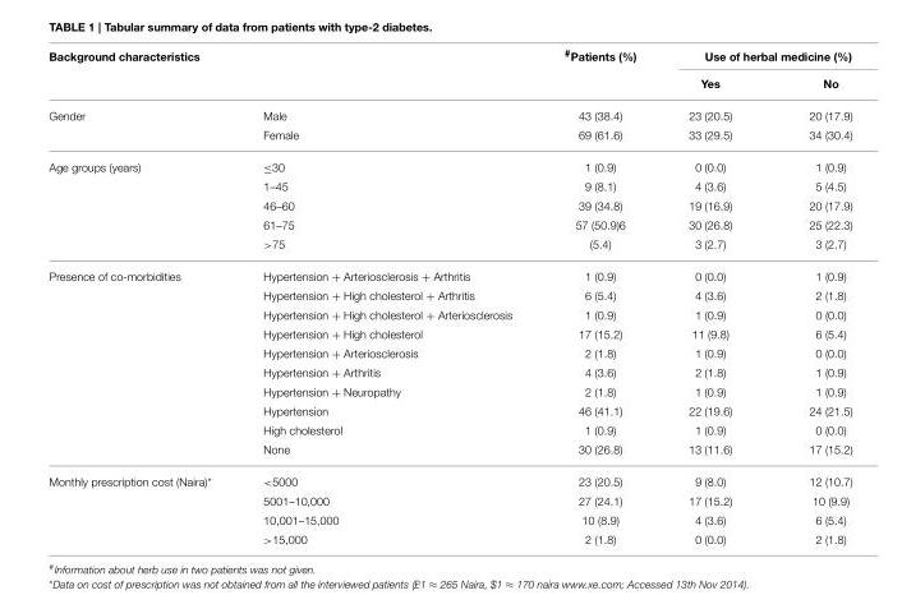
<table><thead><tr><td rowspan="2">Background characteristics</td><td rowspan="2"></td><td rowspan="2"><sup>#</sup>Patients (%)</td><td colspan="2">Use of herbal medicine (%)</td></tr><tr><td>Yes</td><td>No</td></tr></thead><tbody><tr><td rowspan="2">Gender</td><td>Male</td><td>43 (38.4)</td><td>23 (20.5)</td><td>20 (17.9)</td></tr><tr><td>Female</td><td>69 (61.6)</td><td>33 (29.5)</td><td>34 (30.4)</td></tr><tr><td rowspan="5">Age groups (years)</td><td>≤30</td><td>1 (0.9)</td><td>0 (0.0)</td><td>1 (0.9)</td></tr><tr><td>1–45</td><td>9 (8.1)</td><td>4 (3.6)</td><td>5 (4.5)</td></tr><tr><td>46–60</td><td>39 (34.8)</td><td>19 (16.9)</td><td>20 (17.9)</td></tr><tr><td>61–75</td><td>57 (50.9)6</td><td>30 (26.8)</td><td>25 (22.3)</td></tr><tr><td>&gt;75</td><td>(5.4)</td><td>3 (2.7)</td><td>3 (2.7)</td></tr><tr><td rowspan="10">Presence of co-morbidities</td><td>Hypertension + Arteriosclerosis + Arthritis</td><td>1 (0.9)</td><td>0 (0.0)</td><td>1 (0.9)</td></tr><tr><td>Hypertension + High cholesterol + Arthritis</td><td>6 (5.4)</td><td>4 (3.6)</td><td>2 (1.8)</td></tr><tr><td>Hypertension + High cholesterol + Arteriosclerosis</td><td>1 (0.9)</td><td>1 (0.9)</td><td>0 (0.0)</td></tr><tr><td>Hypertension + High cholesterol</td><td>17 (15.2)</td><td>11 (9.8)</td><td>6 (5.4)</td></tr><tr><td>Hypertension + Arteriosclerosis</td><td>2 (1.8)</td><td>1 (0.9)</td><td>0 (0.0)</td></tr><tr><td>Hypertension + Arthritis</td><td>4 (3.6)</td><td>2 (1.8)</td><td>1 (0.9)</td></tr><tr><td>Hypertension + Neuropathy</td><td>2 (1.8)</td><td>1 (0.9)</td><td>1 (0.9)</td></tr><tr><td>Hypertension</td><td>46 (41.1)</td><td>22 (19.6)</td><td>24 (21.5)</td></tr><tr><td>High cholesterol</td><td>1 (0.9)</td><td>1 (0.9)</td><td>0 (0.0)</td></tr><tr><td>None</td><td>30 (26.8)</td><td>13 (11.6)</td><td>17 (15.2)</td></tr><tr><td rowspan="4">Monthly prescription cost (Naira)*</td><td>&lt;5000</td><td>23 (20.5)</td><td>9 (8.0)</td><td>12 (10.7)</td></tr><tr><td>5001–10,000</td><td>27 (24.1)</td><td>17 (15.2)</td><td>10 (9.9)</td></tr><tr><td>10,001–15,000</td><td>10 (8.9)</td><td>4 (3.6)</td><td>6 (5.4)</td></tr><tr><td>&gt;15,000</td><td>2 (1.8)</td><td>0 (0.0)</td><td>2 (1.8)</td></tr></tbody></table>